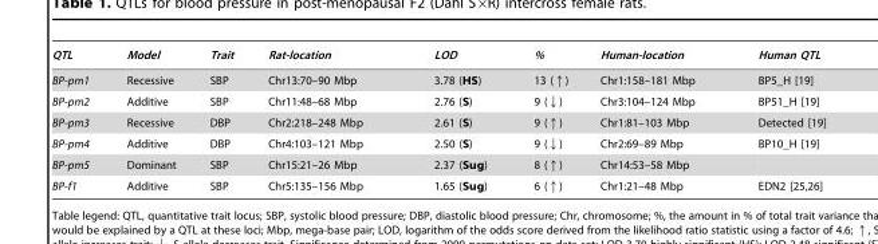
<table><thead><tr><td>QTL</td><td>Model</td><td>Trait</td><td>Rat-location</td><td>LOD</td><td>%</td><td>Human-location</td><td>Human QTL</td></tr></thead><tbody><tr><td>BP-pm1</td><td>Recessive</td><td>SBP</td><td>Chr13:70–90 Mbp</td><td>3.78 (HS)</td><td>13 (↑)</td><td>Chr1:158–181 Mbp</td><td>BP5_H [19]</td></tr><tr><td>BP-pm2</td><td>Additive</td><td>SBP</td><td>Chr11:48–68 Mbp</td><td>2.76 (S)</td><td>9 (↓)</td><td>Chr3:104–124 Mbp</td><td>BP51_H [19]</td></tr><tr><td>BP-pm3</td><td>Recessive</td><td>DBP</td><td>Chr2:218–248 Mbp</td><td>2.61 (S)</td><td>9 (↑)</td><td>Chr1:81–103 Mbp</td><td>Detected [19]</td></tr><tr><td>BP-pm4</td><td>Additive</td><td>DBP</td><td>Chr4:103–121 Mbp</td><td>2.50 (S)</td><td>9 (↓)</td><td>Chr2:69–89 Mbp</td><td>BP10_H [19]</td></tr><tr><td>BP-pm5</td><td>Dominant</td><td>SBP</td><td>Chr15:21–26 Mbp</td><td>2.37 (Sug)</td><td>8 (↑)</td><td>Chr14:53–58 Mbp</td><td></td></tr><tr><td>BP-f1</td><td>Additive</td><td>SBP</td><td>Chr5:135–156 Mbp</td><td>1.65 (Sug)</td><td>6 (↑)</td><td>Chr1:21–48 Mbp</td><td>EDN2 [25,26]</td></tr></tbody></table>